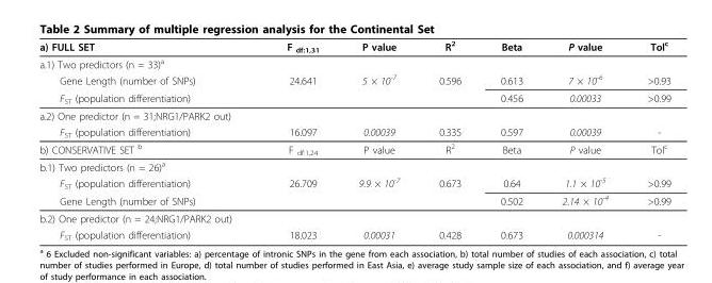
<table><thead><tr><td>a) FULL SET</td><td>F <sub>df:1,31</sub></td><td>P value</td><td>R<sup>2</sup></td><td>Beta</td><td>P value</td><td>Tol<sup>c</sup></td></tr></thead><tbody><tr><td colspan="7">a.1) Two predictors (n = 33)<sup>a</sup></td></tr><tr><td>Gene Length (number of SNPs)</td><td>24.641</td><td>5 × 10<sup>-7</sup></td><td>0.596</td><td>0.613</td><td>7 × 10<sup>-6</sup></td><td>&gt;0.93</td></tr><tr><td>F<sub>ST</sub> (population differentiation)</td><td></td><td></td><td></td><td>0.456</td><td>0.00033</td><td>&gt;0.99</td></tr><tr><td colspan="7">a.2) One predictor (n = 31;NRG1/PARK2 out)</td></tr><tr><td>F<sub>ST</sub> (population differentiation)</td><td>16.097</td><td>0.00039</td><td>0.335</td><td>0.597</td><td>0.00039</td><td>-</td></tr><tr><td>b) CONSERVATIVE SET <sup>b</sup></td><td>F <sub>df:1,24</sub></td><td>P value</td><td>R<sup>2</sup></td><td>Beta</td><td>P value</td><td>Tol<sup>c</sup></td></tr><tr><td colspan="7">b.1) Two predictors (n = 26)<sup>a</sup></td></tr><tr><td>F<sub>ST</sub> (population differentiation)</td><td>26.709</td><td>9.9 × 10<sup>-7</sup></td><td>0.673</td><td>0.64</td><td>1.1 × 10<sup>-5</sup></td><td>&gt;0.99</td></tr><tr><td>Gene Length (number of SNPs)</td><td></td><td></td><td></td><td>0.502</td><td>2.14 × 10<sup>-4</sup></td><td>&gt;0.99</td></tr><tr><td colspan="7">b.2) One predictor (n = 24;NRG1/PARK2 out)</td></tr><tr><td>F<sub>ST</sub> (population differentiation)</td><td>18.023</td><td>0.00031</td><td>0.428</td><td>0.673</td><td>0.000314</td><td>-</td></tr></tbody></table>